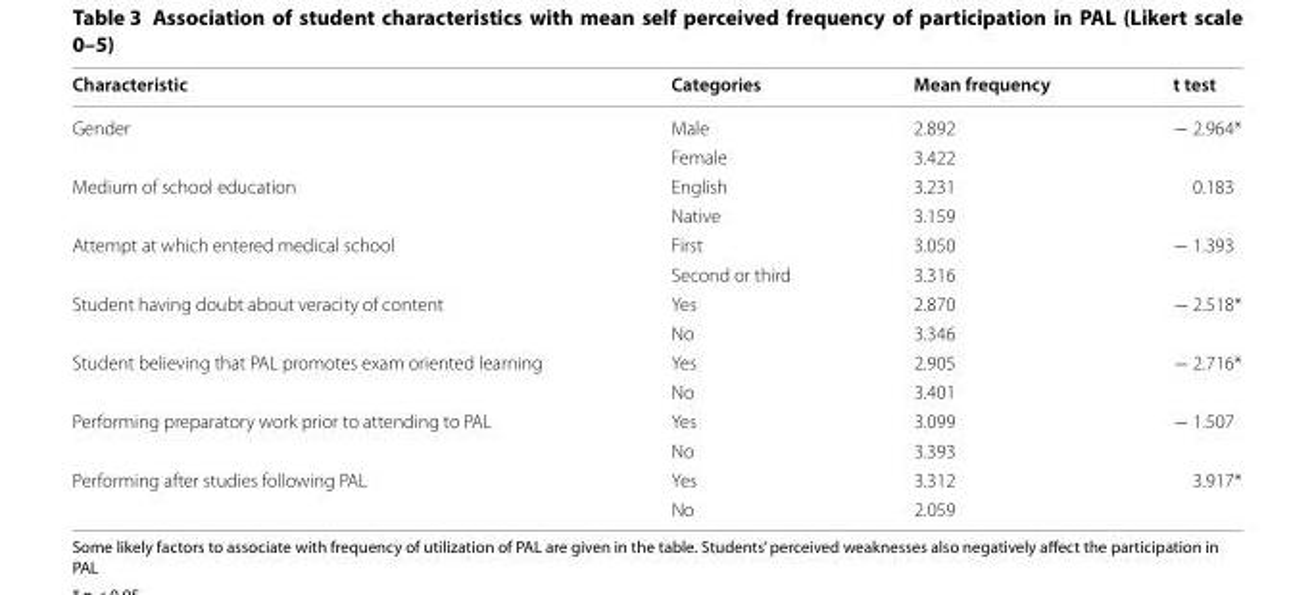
<table><thead><tr><td>Characteristic</td><td>Categories</td><td>Mean frequency</td><td>t test</td></tr></thead><tbody><tr><td rowspan="2">Gender</td><td>Male</td><td>2.892</td><td rowspan="2">− 2.964*</td></tr><tr><td>Female</td><td>3.422</td></tr><tr><td rowspan="2">Medium of school education</td><td>English</td><td>3.231</td><td rowspan="2">0.183</td></tr><tr><td>Native</td><td>3.159</td></tr><tr><td rowspan="2">Attempt at which entered medical school</td><td>First</td><td>3.050</td><td rowspan="2">− 1.393</td></tr><tr><td>Second or third</td><td>3.316</td></tr><tr><td rowspan="2">Student having doubt about veracity of content</td><td>Yes</td><td>2.870</td><td rowspan="2">− 2.518*</td></tr><tr><td>No</td><td>3.346</td></tr><tr><td rowspan="2">Student believing that PAL promotes exam oriented learning</td><td>Yes</td><td>2.905</td><td rowspan="2">− 2.716*</td></tr><tr><td>No</td><td>3.401</td></tr><tr><td rowspan="2">Performing preparatory work prior to attending to PAL</td><td>Yes</td><td>3.099</td><td rowspan="2">− 1.507</td></tr><tr><td>No</td><td>3.393</td></tr><tr><td rowspan="2">Performing after studies following PAL</td><td>Yes</td><td>3.312</td><td rowspan="2">3.917*</td></tr><tr><td>No</td><td>2.059</td></tr></tbody></table>